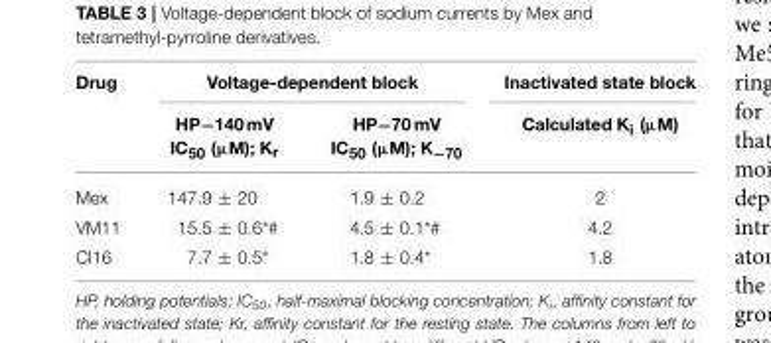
<table><thead><tr><td rowspan="2">Drug</td><td colspan="2">Voltage-dependent block</td><td rowspan="2">Inactivated state block Calculated K<sub>i</sub> (µM)</td></tr><tr><td>HP−140 mV IC<sub>50</sub> (µM); K<sub>r</sub></td><td>HP−70 mV IC<sub>50</sub> (µM); K<sub>−70</sub></td></tr></thead><tbody><tr><td>Mex</td><td>147.9 ± 20</td><td>1.9 ± 0.2</td><td>2</td></tr><tr><td>VM11</td><td>15.5 ± 0.6*#</td><td>4.5 ± 0.1*#</td><td>4.2</td></tr><tr><td>CI16</td><td>7.7 ± 0.5*</td><td>1.8 ± 0.4*</td><td>1.8</td></tr></tbody></table>